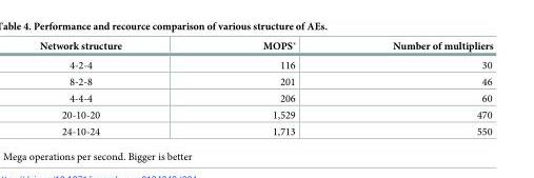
<table><thead><tr><td>Network structure</td><td>MOPS*</td><td>Number of multipliers</td></tr></thead><tbody><tr><td>4-2-4</td><td>116</td><td>30</td></tr><tr><td>8-2-8</td><td>201</td><td>46</td></tr><tr><td>4-4-4</td><td>206</td><td>60</td></tr><tr><td>20-10-20</td><td>1,529</td><td>470</td></tr><tr><td>24-10-24</td><td>1,713</td><td>550</td></tr></tbody></table>